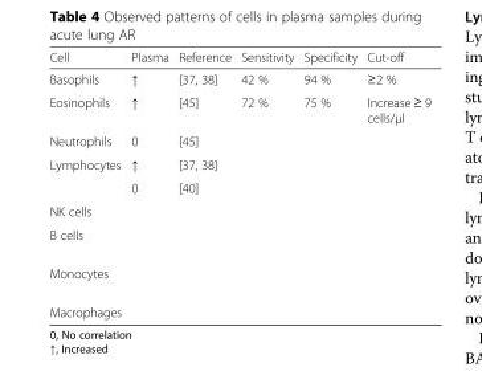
<table><thead><tr><td>Cell</td><td>Plasma</td><td>Reference</td><td>Sensitivity</td><td>Specificity</td><td>Cut-off</td></tr></thead><tbody><tr><td>Basophils</td><td>↑</td><td>[37, 38]</td><td>42 %</td><td>94 %</td><td>≥2 %</td></tr><tr><td>Eosinophils</td><td>↑</td><td>[45]</td><td>72 %</td><td>75 %</td><td>Increase ≥ 9 cells/μl</td></tr><tr><td>Neutrophils</td><td>0</td><td>[45]</td><td></td><td></td><td></td></tr><tr><td rowspan="2">Lymphocytes</td><td>↑</td><td>[37, 38]</td><td></td><td></td><td></td></tr><tr><td>0</td><td>[40]</td><td></td><td></td><td></td></tr><tr><td colspan="6">NK cells</td></tr><tr><td colspan="6">B cells</td></tr><tr><td colspan="6">Monocytes</td></tr><tr><td>Macrophages</td><td></td><td></td><td></td><td></td><td></td></tr></tbody></table>